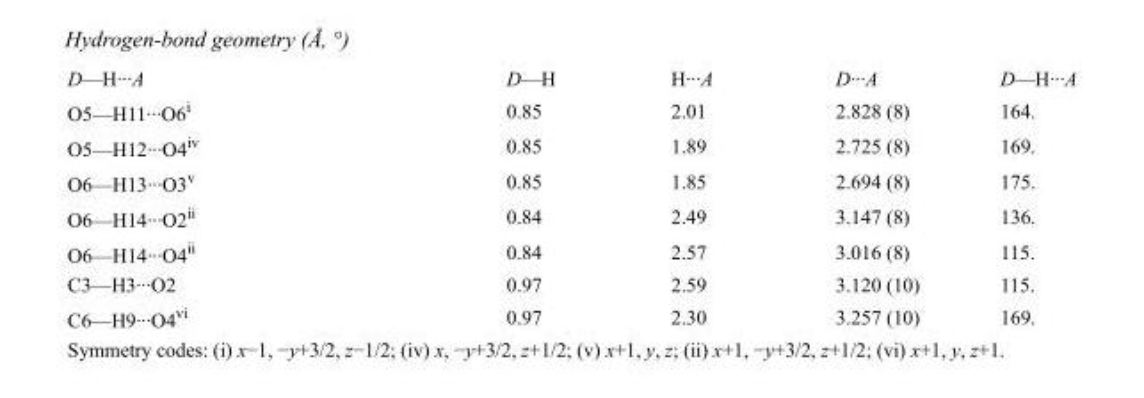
<table><tbody><tr><td>D—H···A</td><td>D—H</td><td>H···A</td><td>D···A</td><td>D—H···A</td></tr><tr><td>O5—H11···O6<sup>i</sup></td><td>0.85</td><td>2.01</td><td>2.828 (8)</td><td>164.</td></tr><tr><td>O5—H12···O4<sup>iv</sup></td><td>0.85</td><td>1.89</td><td>2.725 (8)</td><td>169.</td></tr><tr><td>O6—H13···O3<sup>v</sup></td><td>0.85</td><td>1.85</td><td>2.694 (8)</td><td>175.</td></tr><tr><td>O6—H14···O2<sup>ii</sup></td><td>0.84</td><td>2.49</td><td>3.147 (8)</td><td>136.</td></tr><tr><td>O6—H14···O4<sup>ii</sup></td><td>0.84</td><td>2.57</td><td>3.016 (8)</td><td>115.</td></tr><tr><td>C3—H3···O2</td><td>0.97</td><td>2.59</td><td>3.120 (10)</td><td>115.</td></tr><tr><td>C6—H9···O4<sup>vi</sup></td><td>0.97</td><td>2.30</td><td>3.257 (10)</td><td>169.</td></tr></tbody></table>